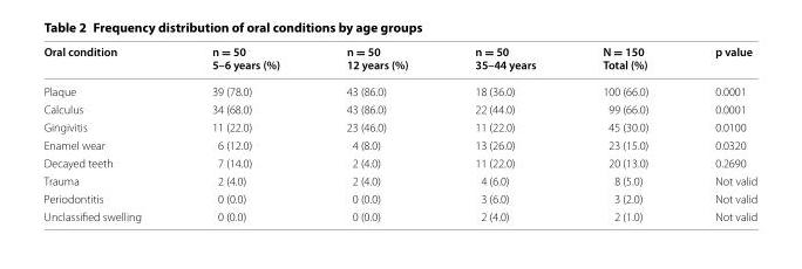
<table><thead><tr><td>Oral condition</td><td>n = 50 5–6 years (%)</td><td>n = 50 12 years (%)</td><td>n = 50 35–44 years</td><td>N = 150 Total (%)</td><td>p value</td></tr></thead><tbody><tr><td>Plaque</td><td>39 (78.0)</td><td>43 (86.0)</td><td>18 (36.0)</td><td>100 (66.0)</td><td>0.0001</td></tr><tr><td>Calculus</td><td>34 (68.0)</td><td>43 (86.0)</td><td>22 (44.0)</td><td>99 (66.0)</td><td>0.0001</td></tr><tr><td>Gingivitis</td><td>11 (22.0)</td><td>23 (46.0)</td><td>11 (22.0)</td><td>45 (30.0)</td><td>0.0100</td></tr><tr><td>Enamel wear</td><td>6 (12.0)</td><td>4 (8.0)</td><td>13 (26.0)</td><td>23 (15.0)</td><td>0.0320</td></tr><tr><td>Decayed teeth</td><td>7 (14.0)</td><td>2 (4.0)</td><td>11 (22.0)</td><td>20 (13.0)</td><td>0.2690</td></tr><tr><td>Trauma</td><td>2 (4.0)</td><td>2 (4.0)</td><td>4 (6.0)</td><td>8 (5.0)</td><td>Not valid</td></tr><tr><td>Periodontitis</td><td>0 (0.0)</td><td>0 (0.0)</td><td>3 (6.0)</td><td>3 (2.0)</td><td>Not valid</td></tr><tr><td>Unclassified swelling</td><td>0 (0.0)</td><td>0 (0.0)</td><td>2 (4.0)</td><td>2 (1.0)</td><td>Not valid</td></tr></tbody></table>